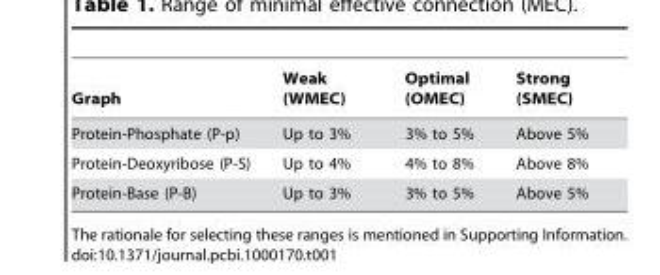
<table><thead><tr><td>Graph</td><td>Weak (WMEC)</td><td>Optimal (OMEC)</td><td>Strong (SMEC)</td></tr></thead><tbody><tr><td>Protein-Phosphate (P-p)</td><td>Up to 3%</td><td>3% to 5%</td><td>Above 5%</td></tr><tr><td>Protein-Deoxyribose (P-S)</td><td>Up to 4%</td><td>4% to 8%</td><td>Above 8%</td></tr><tr><td>Protein-Base (P-B)</td><td>Up to 3%</td><td>3% to 5%</td><td>Above 5%</td></tr></tbody></table>